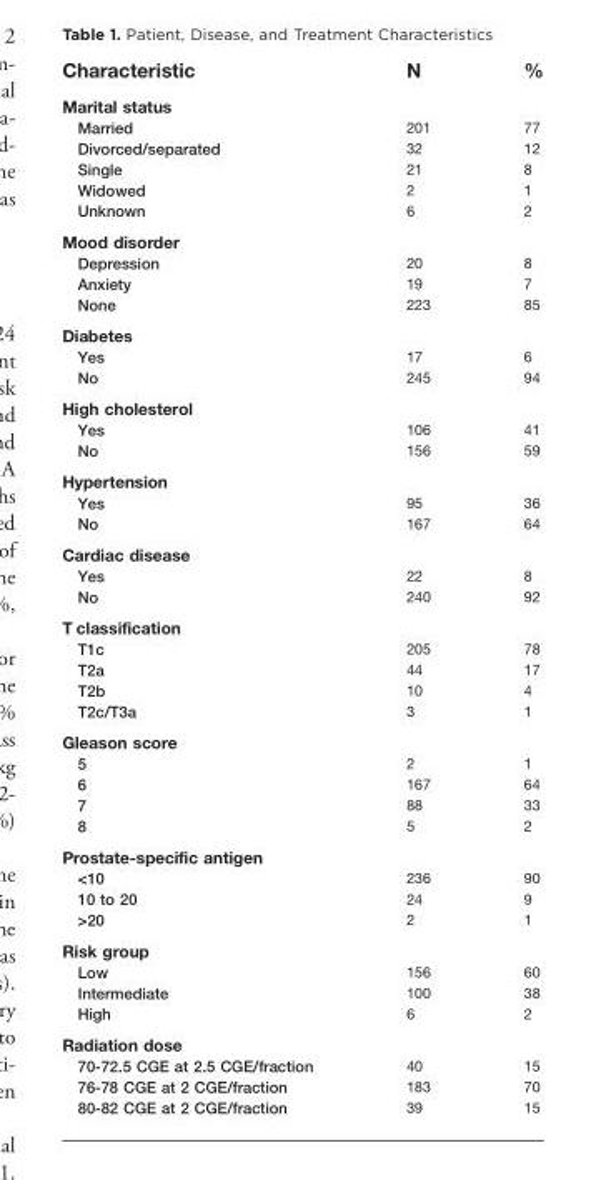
<table><thead><tr><td>Characteristic</td><td>N</td><td>%</td></tr></thead><tbody><tr><td colspan="3">Marital status</td></tr><tr><td>Married</td><td>201</td><td>77</td></tr><tr><td>Divorced/separated</td><td>32</td><td>12</td></tr><tr><td>Single</td><td>21</td><td>8</td></tr><tr><td>Widowed</td><td>2</td><td>1</td></tr><tr><td>Unknown</td><td>6</td><td>2</td></tr><tr><td colspan="3">Mood disorder</td></tr><tr><td>Depression</td><td>20</td><td>8</td></tr><tr><td>Anxiety</td><td>19</td><td>7</td></tr><tr><td>None</td><td>223</td><td>85</td></tr><tr><td colspan="3">Diabetes</td></tr><tr><td>Yes</td><td>17</td><td>6</td></tr><tr><td>No</td><td>245</td><td>94</td></tr><tr><td colspan="3">High cholesterol</td></tr><tr><td>Yes</td><td>106</td><td>41</td></tr><tr><td>No</td><td>156</td><td>59</td></tr><tr><td colspan="3">Hypertension</td></tr><tr><td>Yes</td><td>95</td><td>36</td></tr><tr><td>No</td><td>167</td><td>64</td></tr><tr><td colspan="3">Cardiac disease</td></tr><tr><td>Yes</td><td>22</td><td>8</td></tr><tr><td>No</td><td>240</td><td>92</td></tr><tr><td colspan="3">T classification</td></tr><tr><td>T1c</td><td>205</td><td>78</td></tr><tr><td>T2a</td><td>44</td><td>17</td></tr><tr><td>T2b</td><td>10</td><td>4</td></tr><tr><td>T2c/T3a</td><td>3</td><td>1</td></tr><tr><td colspan="3">Gleason score</td></tr><tr><td>5</td><td>2</td><td>1</td></tr><tr><td>6</td><td>167</td><td>64</td></tr><tr><td>7</td><td>88</td><td>33</td></tr><tr><td>8</td><td>5</td><td>2</td></tr><tr><td colspan="3">Prostate-specific antigen</td></tr><tr><td>&lt;10</td><td>236</td><td>90</td></tr><tr><td>10 to 20</td><td>24</td><td>9</td></tr><tr><td>&gt;20</td><td>2</td><td>1</td></tr><tr><td colspan="3">Risk group</td></tr><tr><td>Low</td><td>156</td><td>60</td></tr><tr><td>Intermediate</td><td>100</td><td>38</td></tr><tr><td>High</td><td>6</td><td>2</td></tr><tr><td colspan="3">Radiation dose</td></tr><tr><td>70-72.5 CGE at 2.5 CGE/fraction</td><td>40</td><td>15</td></tr><tr><td>76-78 CGE at 2 CGE/fraction</td><td>183</td><td>70</td></tr><tr><td>80-82 CGE at 2 CGE/fraction</td><td>39</td><td>15</td></tr></tbody></table>